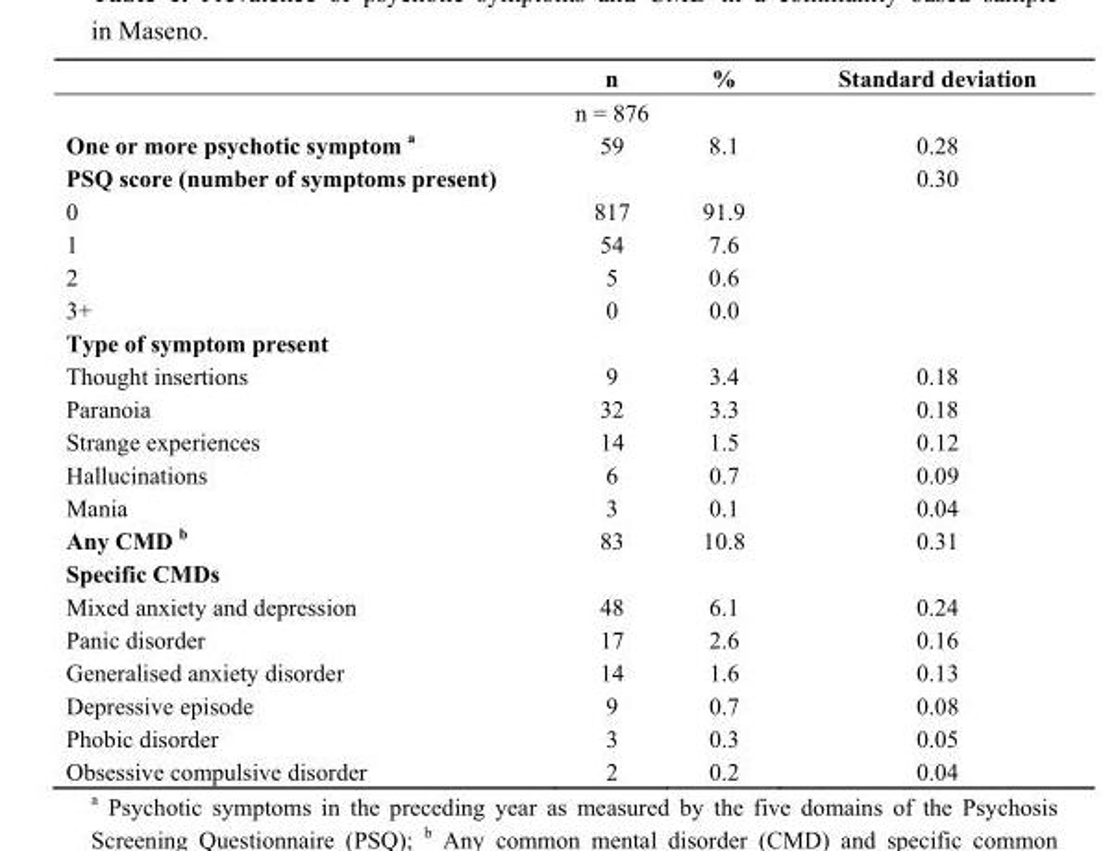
<table><thead><tr><td></td><td>n</td><td>%</td><td>Standard deviation</td></tr></thead><tbody><tr><td></td><td>n = 876</td><td></td><td></td></tr><tr><td>One or more psychotic symptom <sup>a</sup></td><td>59</td><td>8.1</td><td>0.28</td></tr><tr><td>PSQ score (number of symptoms present)</td><td></td><td></td><td>0.30</td></tr><tr><td>0</td><td>817</td><td>91.9</td><td></td></tr><tr><td>1</td><td>54</td><td>7.6</td><td></td></tr><tr><td>2</td><td>5</td><td>0.6</td><td></td></tr><tr><td>3+</td><td>0</td><td>0.0</td><td></td></tr><tr><td colspan="4">Type of symptom present</td></tr><tr><td>Thought insertions</td><td>9</td><td>3.4</td><td>0.18</td></tr><tr><td>Paranoia</td><td>32</td><td>3.3</td><td>0.18</td></tr><tr><td>Strange experiences</td><td>14</td><td>1.5</td><td>0.12</td></tr><tr><td>Hallucinations</td><td>6</td><td>0.7</td><td>0.09</td></tr><tr><td>Mania</td><td>3</td><td>0.1</td><td>0.04</td></tr><tr><td>Any CMD <sup>b</sup></td><td>83</td><td>10.8</td><td>0.31</td></tr><tr><td colspan="4">Specific CMDs</td></tr><tr><td>Mixed anxiety and depression</td><td>48</td><td>6.1</td><td>0.24</td></tr><tr><td>Panic disorder</td><td>17</td><td>2.6</td><td>0.16</td></tr><tr><td>Generalised anxiety disorder</td><td>14</td><td>1.6</td><td>0.13</td></tr><tr><td>Depressive episode</td><td>9</td><td>0.7</td><td>0.08</td></tr><tr><td>Phobic disorder</td><td>3</td><td>0.3</td><td>0.05</td></tr><tr><td>Obsessive compulsive disorder</td><td>2</td><td>0.2</td><td>0.04</td></tr></tbody></table>